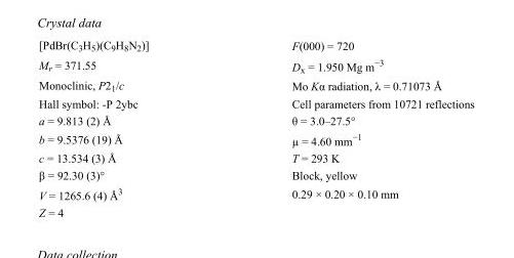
<table><tbody><tr><td>[PdBr(C<sub>3</sub>H<sub>5</sub>)(C<sub>9</sub>H<sub>8</sub>N<sub>2</sub>)]</td><td>F(000) = 720</td></tr><tr><td>M<sub>r</sub> = 371.55</td><td>D<sub>x</sub> = 1.950 Mg m<sup>−3</sup></td></tr><tr><td>Monoclinic, P2<sub>1</sub>/c</td><td>Mo Kα radiation, λ = 0.71073 Å</td></tr><tr><td>Hall symbol: -P 2ybc</td><td>Cell parameters from 10721 reflections</td></tr><tr><td>a = 9.813 (2) Å</td><td>θ = 3.0–27.5°</td></tr><tr><td>b = 9.5376 (19) Å</td><td>µ = 4.60 mm<sup>−1</sup></td></tr><tr><td>c = 13.534 (3) Å</td><td>T = 293 K</td></tr><tr><td>β = 92.30 (3)°</td><td>Block, yellow</td></tr><tr><td>V = 1265.6 (4) Å<sup>3</sup></td><td>0.29 × 0.20 × 0.10 mm</td></tr><tr><td>Z = 4</td><td></td></tr></tbody></table>